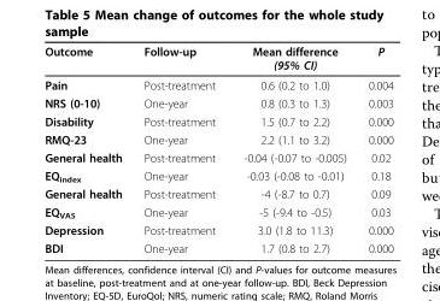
<table><thead><tr><td>Outcome</td><td>Follow-up</td><td>Mean difference (95% CI)</td><td>P</td></tr></thead><tbody><tr><td>Pain</td><td>Post-treatment</td><td>0.6 (0.2 to 1.0)</td><td>0.004</td></tr><tr><td>NRS (0-10)</td><td>One-year</td><td>0.8 (0.3 to 1.3)</td><td>0.003</td></tr><tr><td>Disability</td><td>Post-treatment</td><td>1.5 (0.7 to 2.2)</td><td>0.000</td></tr><tr><td>RMQ-23</td><td>One-year</td><td>2.2 (1.1 to 3.2)</td><td>0.000</td></tr><tr><td>General health</td><td>Post-treatment</td><td>-0.04 (-0.07 to -0.005)</td><td>0.02</td></tr><tr><td>EQ<sub>index</sub></td><td>One-year</td><td>-0.03 (-0.08 to -0.01)</td><td>0.18</td></tr><tr><td>General health</td><td>Post-treatment</td><td>-4 (-8.7 to 0.7)</td><td>0.09</td></tr><tr><td>EQ<sub>VAS</sub></td><td>One-year</td><td>-5 (-9.4 to -0.5)</td><td>0.03</td></tr><tr><td>Depression</td><td>Post-treatment</td><td>3.0 (1.8 to 11.3)</td><td>0.000</td></tr><tr><td>BDI</td><td>One-year</td><td>1.7 (0.8 to 2.7)</td><td>0.000</td></tr></tbody></table>